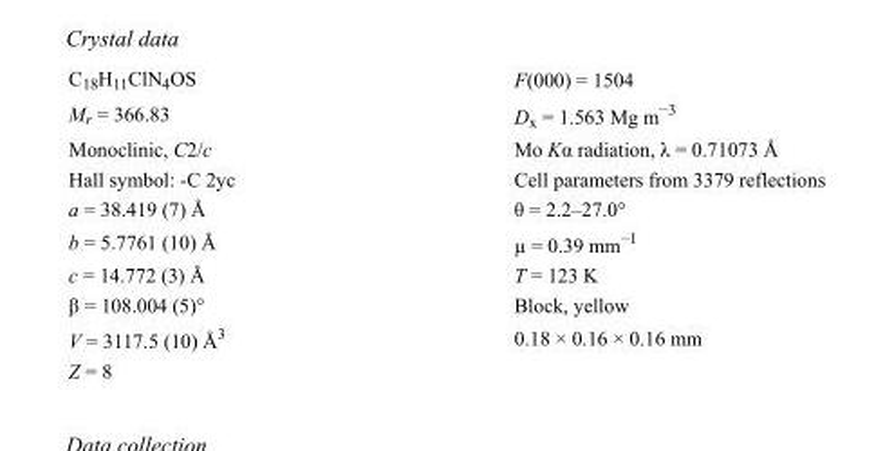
<table><tbody><tr><td>C<sub>18</sub>H<sub>11</sub>ClN<sub>4</sub>OS</td><td>F(000) = 1504</td></tr><tr><td>M<sub>r</sub> = 366.83</td><td>D<sub>x</sub> = 1.563 Mg m<sup>−3</sup></td></tr><tr><td>Monoclinic, C2/c</td><td>Mo Kα radiation, λ = 0.71073 Å</td></tr><tr><td>Hall symbol: -C 2yc</td><td>Cell parameters from 3379 reflections</td></tr><tr><td>a = 38.419 (7) Å</td><td>θ = 2.2–27.0°</td></tr><tr><td>b = 5.7761 (10) Å</td><td>µ = 0.39 mm<sup>−1</sup></td></tr><tr><td>c = 14.772 (3) Å</td><td>T = 123 K</td></tr><tr><td>β = 108.004 (5)°</td><td>Block, yellow</td></tr><tr><td>V = 3117.5 (10) Å<sup>3</sup></td><td>0.18 × 0.16 × 0.16 mm</td></tr><tr><td>Z = 8</td><td></td></tr></tbody></table>